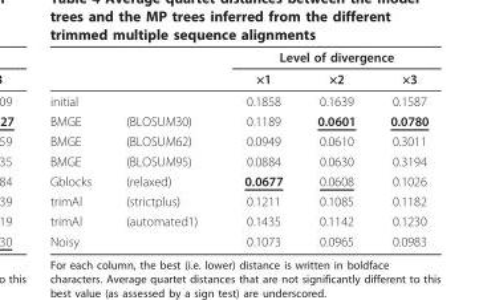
<table><thead><tr><td rowspan="2"></td><td rowspan="2"></td><td colspan="3">Level of divergence</td></tr><tr><td>×1</td><td>×2</td><td>×3</td></tr></thead><tbody><tr><td>initial</td><td></td><td>0.1858</td><td>0.1639</td><td>0.1587</td></tr><tr><td>BMGE</td><td>(BLOSUM30)</td><td>0.1189</td><td>0.0601</td><td>0.0780</td></tr><tr><td>BMGE</td><td>(BLOSUM62)</td><td>0.0949</td><td>0.0610</td><td>0.3011</td></tr><tr><td>BMGE</td><td>(BLOSUM95)</td><td>0.0884</td><td>0.0630</td><td>0.3194</td></tr><tr><td>Gblocks</td><td>(relaxed)</td><td>0.0677</td><td>0.0608</td><td>0.1026</td></tr><tr><td>trimAl</td><td>(strictplus)</td><td>0.1211</td><td>0.1085</td><td>0.1182</td></tr><tr><td>trimAl</td><td>(automated1)</td><td>0.1435</td><td>0.1142</td><td>0.1230</td></tr><tr><td>Noisy</td><td></td><td>0.1073</td><td>0.0965</td><td>0.0983</td></tr></tbody></table>